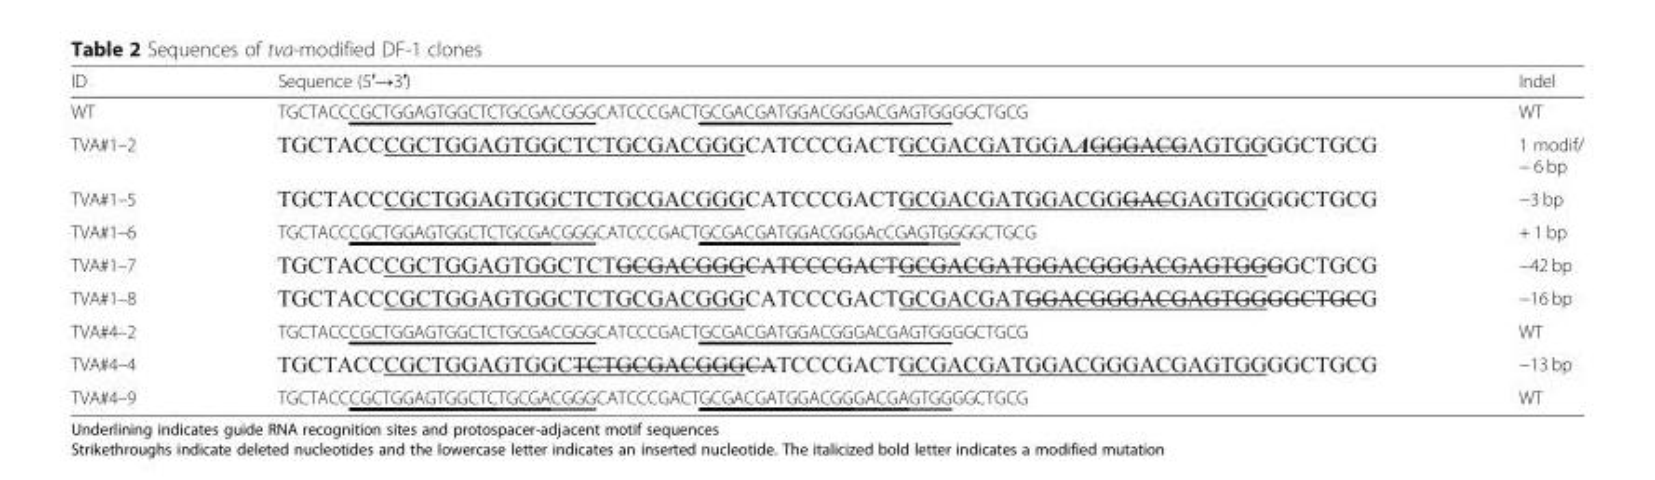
<table><thead><tr><td>ID</td><td>Sequence (5′→3′)</td><td>Indel</td></tr></thead><tbody><tr><td>WT</td><td>TGCTACCCGCTGGAGTGGCTCTGCGACGGGCATCCCGACTGCGACGATGGACGGGACGAGTGGGGCTGCG</td><td>WT</td></tr><tr><td>TVA#1–2</td><td></td><td>1 modif/ − 6 bp</td></tr><tr><td>TVA#1–5</td><td></td><td>−3 bp</td></tr><tr><td>TVA#1–6</td><td>TGCTACCCGCTGGAGTGGCTCTGCGACGGGCATCCCGACTGCGACGATGGACGGGAcCGAGTGGGGCTGCG</td><td>+ 1 bp</td></tr><tr><td>TVA#1–7</td><td></td><td>−42 bp</td></tr><tr><td>TVA#1–8</td><td></td><td>−16 bp</td></tr><tr><td>TVA#4–2</td><td>TGCTACCCGCTGGAGTGGCTCTGCGACGGGCATCCCGACTGCGACGATGGACGGGACGAGTGGGGCTGCG</td><td>WT</td></tr><tr><td>TVA#4–4</td><td></td><td>−13 bp</td></tr><tr><td>TVA#4–9</td><td>TGCTACCCGCTGGAGTGGCTCTGCGACGGGCATCCCGACTGCGACGATGGACGGGACGAGTGGGGCTGCG</td><td>WT</td></tr></tbody></table>